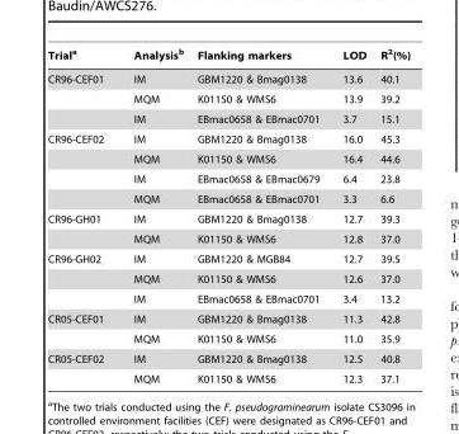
<table><thead><tr><td>Trial<sup>a</sup></td><td>Analysis<sup>b</sup></td><td>Flanking markers</td><td>LOD</td><td>R<sup>2</sup>(%)</td></tr></thead><tbody><tr><td rowspan="3">CR96-CEF01</td><td>IM</td><td>GBM1220 &amp; Bmag0138</td><td>13.6</td><td>40.1</td></tr><tr><td>MQM</td><td>K01150 &amp; WMS6</td><td>13.9</td><td>39.2</td></tr><tr><td>IM</td><td>EBmac0658 &amp; EBmac0701</td><td>3.7</td><td>15.1</td></tr><tr><td rowspan="4">CR96-CEF02</td><td>IM</td><td>GBM1220 &amp; Bmag0138</td><td>16.0</td><td>45.3</td></tr><tr><td>MQM</td><td>K01150 &amp; WMS6</td><td>16.4</td><td>44.6</td></tr><tr><td>IM</td><td>EBmac0658 &amp; EBmac0679</td><td>6.4</td><td>23.8</td></tr><tr><td>MQM</td><td>EBmac0658 &amp; EBmac0701</td><td>3.3</td><td>6.6</td></tr><tr><td rowspan="2">CR96-GH01</td><td>IM</td><td>GBM1220 &amp; Bmag0138</td><td>12.7</td><td>39.3</td></tr><tr><td>MQM</td><td>K01150 &amp; WMS6</td><td>12.8</td><td>37.0</td></tr><tr><td rowspan="3">CR96-GH02</td><td>IM</td><td>GBM1220 &amp; MGB84</td><td>12.7</td><td>39.5</td></tr><tr><td>MQM</td><td>K01150 &amp; WMS6</td><td>12.6</td><td>37.0</td></tr><tr><td>IM</td><td>EBmac0658 &amp; EBmac0701</td><td>3.4</td><td>13.2</td></tr><tr><td rowspan="2">CR05-CEF01</td><td>IM</td><td>GBM1220 &amp; Bmag0138</td><td>11.3</td><td>42.8</td></tr><tr><td>MQM</td><td>K01150 &amp; WMS6</td><td>11.0</td><td>35.9</td></tr><tr><td rowspan="2">CR05-CEF02</td><td>IM</td><td>GBM1220 &amp; Bmag0138</td><td>12.5</td><td>40.8</td></tr><tr><td>MQM</td><td>K01150 &amp; WMS6</td><td>12.3</td><td>37.1</td></tr></tbody></table>